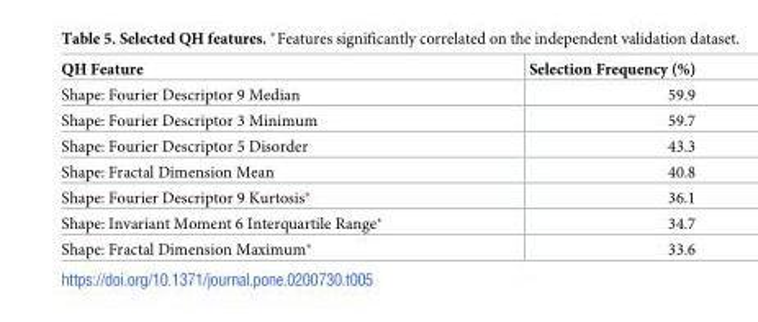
<table><thead><tr><td>QH Feature</td><td>Selection Frequency (%)</td></tr></thead><tbody><tr><td>Shape: Fourier Descriptor 9 Median</td><td>59.9</td></tr><tr><td>Shape: Fourier Descriptor 3 Minimum</td><td>59.7</td></tr><tr><td>Shape: Fourier Descriptor 5 Disorder</td><td>43.3</td></tr><tr><td>Shape: Fractal Dimension Mean</td><td>40.8</td></tr><tr><td>Shape: Fourier Descriptor 9 Kurtosis*</td><td>36.1</td></tr><tr><td>Shape: Invariant Moment 6 Interquartile Range*</td><td>34.7</td></tr><tr><td>Shape: Fractal Dimension Maximum*</td><td>33.6</td></tr></tbody></table>